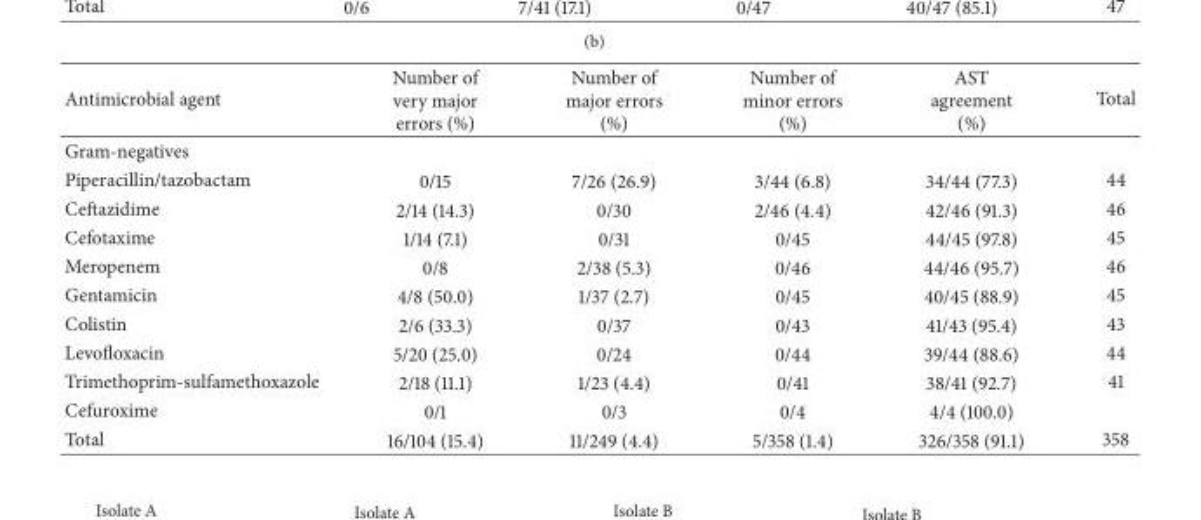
<table><thead><tr><td>Antimicrobial agent</td><td>Number of very major errors (%)</td><td>Number of major errors (%)</td><td>Number of minor errors (%)</td><td>AST agreement (%)</td><td>Total</td></tr></thead><tbody><tr><td colspan="6">Gram-negatives</td></tr><tr><td>Piperacillin/tazobactam</td><td>0/15</td><td>7/26 (26.9)</td><td>3/44 (6.8)</td><td>34/44 (77.3)</td><td>44</td></tr><tr><td>Ceftazidime</td><td>2/14 (14.3)</td><td>0/30</td><td>2/46 (4.4)</td><td>42/46 (91.3)</td><td>46</td></tr><tr><td>Cefotaxime</td><td>1/14 (7.1)</td><td>0/31</td><td>0/45</td><td>44/45 (97.8)</td><td>45</td></tr><tr><td>Meropenem</td><td>0/8</td><td>2/38 (5.3)</td><td>0/46</td><td>44/46 (95.7)</td><td>46</td></tr><tr><td>Gentamicin</td><td>4/8 (50.0)</td><td>1/37 (2.7)</td><td>0/45</td><td>40/45 (88.9)</td><td>45</td></tr><tr><td>Colistin</td><td>2/6 (33.3)</td><td>0/37</td><td>0/43</td><td>41/43 (95.4)</td><td>43</td></tr><tr><td>Levofloxacin</td><td>5/20 (25.0)</td><td>0/24</td><td>0/44</td><td>39/44 (88.6)</td><td>44</td></tr><tr><td>Trimethoprim-sulfamethoxazole</td><td>2/18 (11.1)</td><td>1/23 (4.4)</td><td>0/41</td><td>38/41 (92.7)</td><td>41</td></tr><tr><td>Cefuroxime</td><td>0/1</td><td>0/3</td><td>0/4</td><td>4/4 (100.0)</td><td></td></tr><tr><td>Total</td><td>16/104 (15.4)</td><td>11/249 (4.4)</td><td>5/358 (1.4)</td><td>326/358 (91.1)</td><td>358</td></tr></tbody></table>